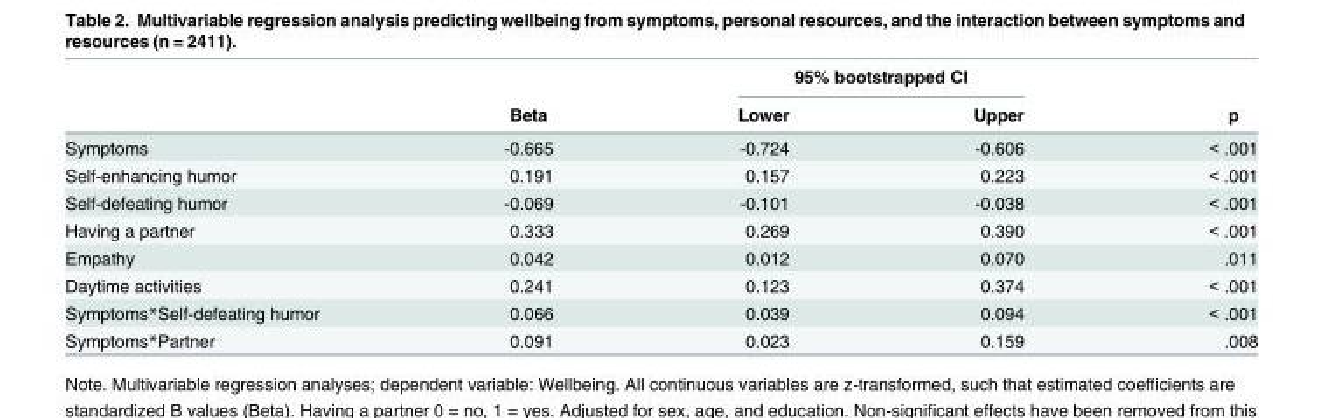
<table><thead><tr><td rowspan="2"></td><td rowspan="2">Beta</td><td colspan="2">95% bootstrapped CI</td><td rowspan="2">p</td></tr><tr><td>Lower</td><td>Upper</td></tr></thead><tbody><tr><td>Symptoms</td><td>-0.665</td><td>-0.724</td><td>-0.606</td><td>&lt; .001</td></tr><tr><td>Self-enhancing humor</td><td>0.191</td><td>0.157</td><td>0.223</td><td>&lt; .001</td></tr><tr><td>Self-defeating humor</td><td>-0.069</td><td>-0.101</td><td>-0.038</td><td>&lt; .001</td></tr><tr><td>Having a partner</td><td>0.333</td><td>0.269</td><td>0.390</td><td>&lt; .001</td></tr><tr><td>Empathy</td><td>0.042</td><td>0.012</td><td>0.070</td><td>.011</td></tr><tr><td>Daytime activities</td><td>0.241</td><td>0.123</td><td>0.374</td><td>&lt; .001</td></tr><tr><td>Symptoms*Self-defeating humor</td><td>0.066</td><td>0.039</td><td>0.094</td><td>&lt; .001</td></tr><tr><td>Symptoms*Partner</td><td>0.091</td><td>0.023</td><td>0.159</td><td>.008</td></tr></tbody></table>